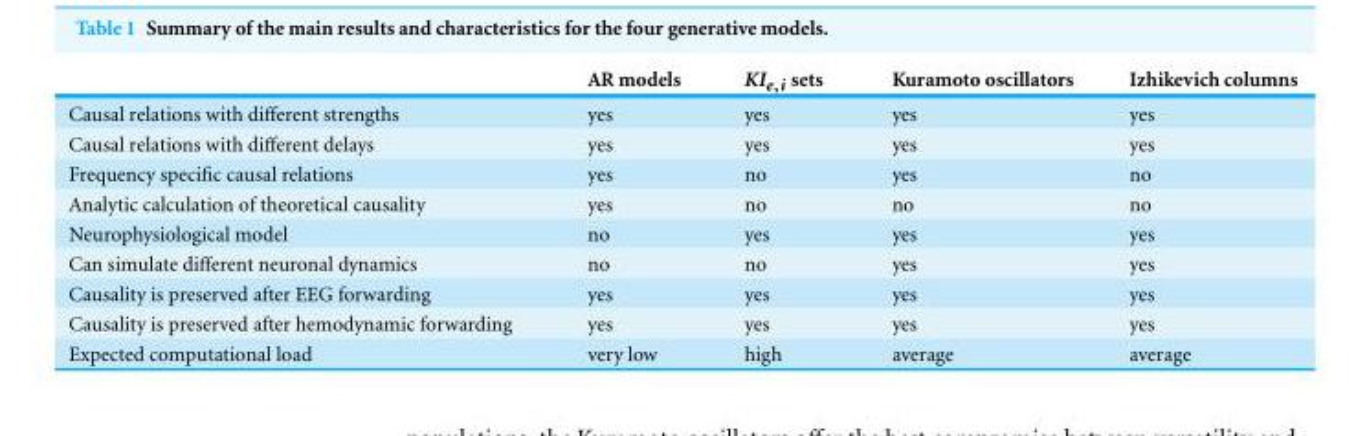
<table><thead><tr><td></td><td>AR models</td><td>KI<sub>e,i</sub> sets</td><td>Kuramoto oscillators</td><td>Izhikevich columns</td></tr></thead><tbody><tr><td>Causal relations with different strengths</td><td>yes</td><td>yes</td><td>yes</td><td>yes</td></tr><tr><td>Causal relations with different delays</td><td>yes</td><td>yes</td><td>yes</td><td>yes</td></tr><tr><td>Frequency specific causal relations</td><td>yes</td><td>no</td><td>yes</td><td>no</td></tr><tr><td>Analytic calculation of theoretical causality</td><td>yes</td><td>no</td><td>no</td><td>no</td></tr><tr><td>Neurophysiological model</td><td>no</td><td>yes</td><td>yes</td><td>yes</td></tr><tr><td>Can simulate different neuronal dynamics</td><td>no</td><td>no</td><td>yes</td><td>yes</td></tr><tr><td>Causality is preserved after EEG forwarding</td><td>yes</td><td>yes</td><td>yes</td><td>yes</td></tr><tr><td>Causality is preserved after hemodynamic forwarding</td><td>yes</td><td>yes</td><td>yes</td><td>yes</td></tr><tr><td>Expected computational load</td><td>very low</td><td>high</td><td>average</td><td>average</td></tr></tbody></table>